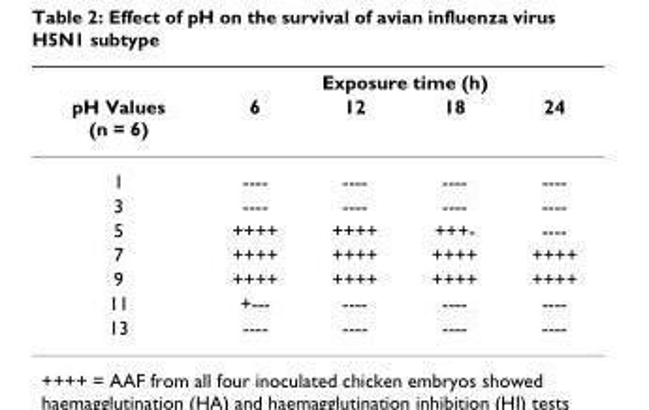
<table><thead><tr><td rowspan="2">pH Values (n = 6)</td><td colspan="4">Exposure time (h)</td></tr><tr><td>6</td><td>12</td><td>18</td><td>24</td></tr></thead><tbody><tr><td>1</td><td>----</td><td>----</td><td>----</td><td>----</td></tr><tr><td>3</td><td>----</td><td>----</td><td>----</td><td>----</td></tr><tr><td>5</td><td>++++</td><td>++++</td><td>+++-</td><td>----</td></tr><tr><td>7</td><td>++++</td><td>++++</td><td>++++</td><td>++++</td></tr><tr><td>9</td><td>++++</td><td>++++</td><td>++++</td><td>++++</td></tr><tr><td>11</td><td>+---</td><td>----</td><td>----</td><td>----</td></tr><tr><td>13</td><td>----</td><td>----</td><td>----</td><td>----</td></tr></tbody></table>